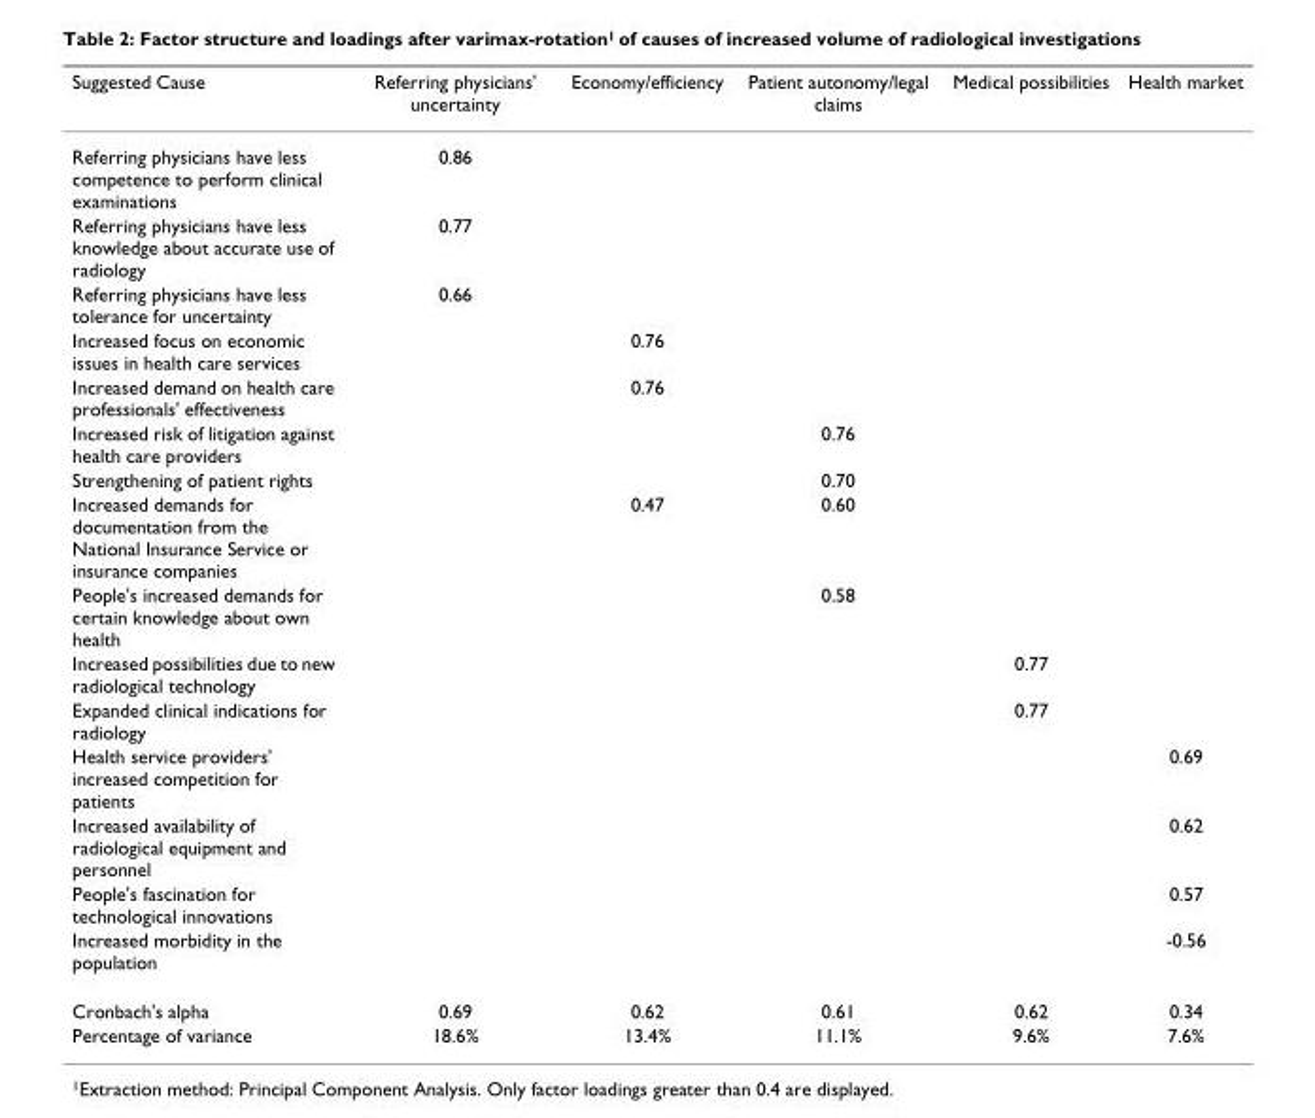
<table><thead><tr><td>Suggested Cause</td><td>Referring physicians&#x27; uncertainty</td><td>Economy/efficiency</td><td>Patient autonomy/legal claims</td><td>Medical possibilities</td><td>Health market</td></tr></thead><tbody><tr><td>Referring physicians have less competence to perform clinical examinations</td><td>0.86</td><td></td><td></td><td></td><td></td></tr><tr><td>Referring physicians have less knowledge about accurate use of radiology</td><td>0.77</td><td></td><td></td><td></td><td></td></tr><tr><td>Referring physicians have less tolerance for uncertainty</td><td>0.66</td><td></td><td></td><td></td><td></td></tr><tr><td>Increased focus on economic issues in health care services</td><td></td><td>0.76</td><td></td><td></td><td></td></tr><tr><td>Increased demand on health care professionals&#x27; effectiveness</td><td></td><td>0.76</td><td></td><td></td><td></td></tr><tr><td>Increased risk of litigation against health care providers</td><td></td><td></td><td>0.76</td><td></td><td></td></tr><tr><td>Strengthening of patient rights</td><td></td><td></td><td>0.70</td><td></td><td></td></tr><tr><td>Increased demands for documentation from the National Insurance Service or insurance companies</td><td></td><td>0.47</td><td>0.60</td><td></td><td></td></tr><tr><td>People&#x27;s increased demands for certain knowledge about own health</td><td></td><td></td><td>0.58</td><td></td><td></td></tr><tr><td>Increased possibilities due to new radiological technology</td><td></td><td></td><td></td><td>0.77</td><td></td></tr><tr><td>Expanded clinical indications for radiology</td><td></td><td></td><td></td><td>0.77</td><td></td></tr><tr><td>Health service providers&#x27; increased competition for patients</td><td></td><td></td><td></td><td></td><td>0.69</td></tr><tr><td>Increased availability of radiological equipment and personnel</td><td></td><td></td><td></td><td></td><td>0.62</td></tr><tr><td>People&#x27;s fascination for technological innovations</td><td></td><td></td><td></td><td></td><td>0.57</td></tr><tr><td>Increased morbidity in the population</td><td></td><td></td><td></td><td></td><td>-0.56</td></tr><tr><td>Cronbach&#x27;s alpha</td><td>0.69</td><td>0.62</td><td>0.61</td><td>0.62</td><td>0.34</td></tr><tr><td>Percentage of variance</td><td>18.6%</td><td>13.4%</td><td>11.1%</td><td>9.6%</td><td>7.6%</td></tr></tbody></table>